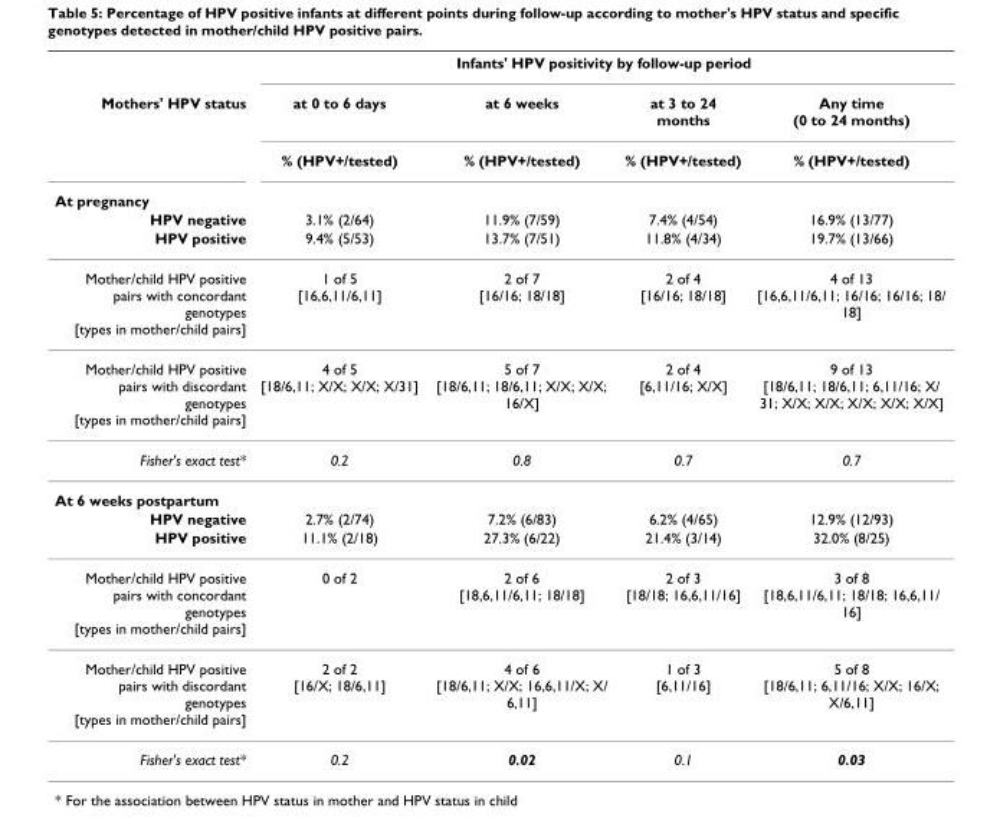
<table><thead><tr><td rowspan="6">Mothers&#x27; HPV status At pregnancy HPV negative HPV positive</td><td colspan="4">Infants&#x27; HPV positivity by follow-up period</td></tr><tr><td rowspan="5">at 0 to 6 days % (HPV+/tested) 3.1% (2/64) 9.4% (5/53)</td><td rowspan="5">at 6 weeks % (HPV+/tested) 11.9% (7/59) 13.7% (7/51)</td><td rowspan="5">at 3 to 24 months % (HPV+/tested) 7.4% (4/54) 11.8% (4/34)</td><td rowspan="5">Any time (0 to 24 months) % (HPV+/tested) 16.9% (13/77) 19.7% (13/66)</td></tr><tr></tr><tr></tr><tr></tr><tr></tr></thead><tbody><tr><td>Mother/child HPV positive pairs with concordant genotypes [types in mother/child pairs]</td><td>1 of 5 [16,6,11/6,11]</td><td>2 of 7 [16/16; 18/18]</td><td>2 of 4 [16/16; 18/18]</td><td>4 of 13 [16,6,11/6,11; 16/16; 16/16; 18/ 18]</td></tr><tr><td>Mother/child HPV positive pairs with discordant genotypes [types in mother/child pairs]</td><td>4 of 5 [18/6,11; X/X; X/X; X/31]</td><td>5 of 7 [18/6,11; 18/6,11; X/X; X/X; 16/X]</td><td>2 of 4 [6,11/16; X/X]</td><td>9 of 13 [18/6,11; 18/6,11; 6,11/16; X/ 31; X/X; X/X; X/X; X/X; X/X]</td></tr><tr><td>Fisher&#x27;s exact test*</td><td>0.2</td><td>0.8</td><td>0.7</td><td>0.7</td></tr><tr><td colspan="5">At 6 weeks postpartum</td></tr><tr><td>HPV negative</td><td>2.7% (2/74)</td><td>7.2% (6/83)</td><td>6.2% (4/65)</td><td>12.9% (12/93)</td></tr><tr><td>HPV positive</td><td>11.1% (2/18)</td><td>27.3% (6/22)</td><td>21.4% (3/14)</td><td>32.0% (8/25)</td></tr><tr><td>Mother/child HPV positive pairs with concordant genotypes [types in mother/child pairs]</td><td>0 of 2</td><td>2 of 6 [18,6,11/6,11; 18/18]</td><td>2 of 3 [18/18; 16,6,11/16]</td><td>3 of 8 [18,6,11/6,11; 18/18; 16,6,11/ 16]</td></tr><tr><td>Mother/child HPV positive pairs with discordant genotypes [types in mother/child pairs]</td><td>2 of 2 [16/X; 18/6,11]</td><td>4 of 6 [18/6,11; X/X; 16,6,11/X; X/ 6,11]</td><td>1 of 3 [6,11/16]</td><td>5 of 8 [18/6,11; 6,11/16; X/X; 16/X; X/6,11]</td></tr><tr><td>Fisher&#x27;s exact test*</td><td>0.2</td><td>0.02</td><td>0.1</td><td>0.03</td></tr></tbody></table>